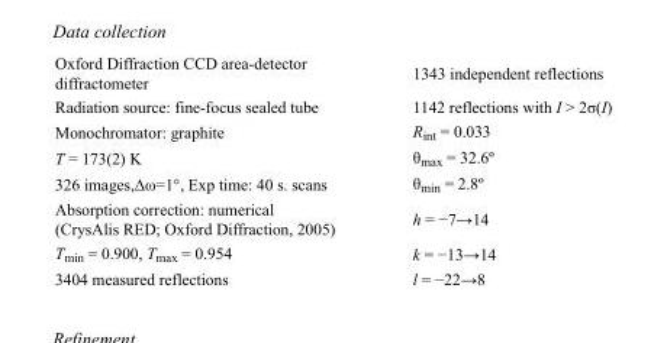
<table><tbody><tr><td>Oxford Diffraction CCD area-detector diffractometer</td><td>1343 independent reflections</td></tr><tr><td>Radiation source: fine-focus sealed tube</td><td>1142 reflections with I &gt; 2σ(I)</td></tr><tr><td>Monochromator: graphite</td><td>R<sub>int</sub> = 0.033</td></tr><tr><td>T = 173(2) K</td><td>θ<sub>max</sub> = 32.6º</td></tr><tr><td>326 images,Δω=1°, Exp time: 40 s. scans</td><td>θ<sub>min</sub> = 2.8º</td></tr><tr><td>Absorption correction: numerical (CrysAlis RED; Oxford Diffraction, 2005)</td><td>h = −7→14</td></tr><tr><td>T<sub>min</sub> = 0.900, T<sub>max</sub> = 0.954</td><td>k = −13→14</td></tr><tr><td>3404 measured reflections</td><td>l = −22→8</td></tr></tbody></table>